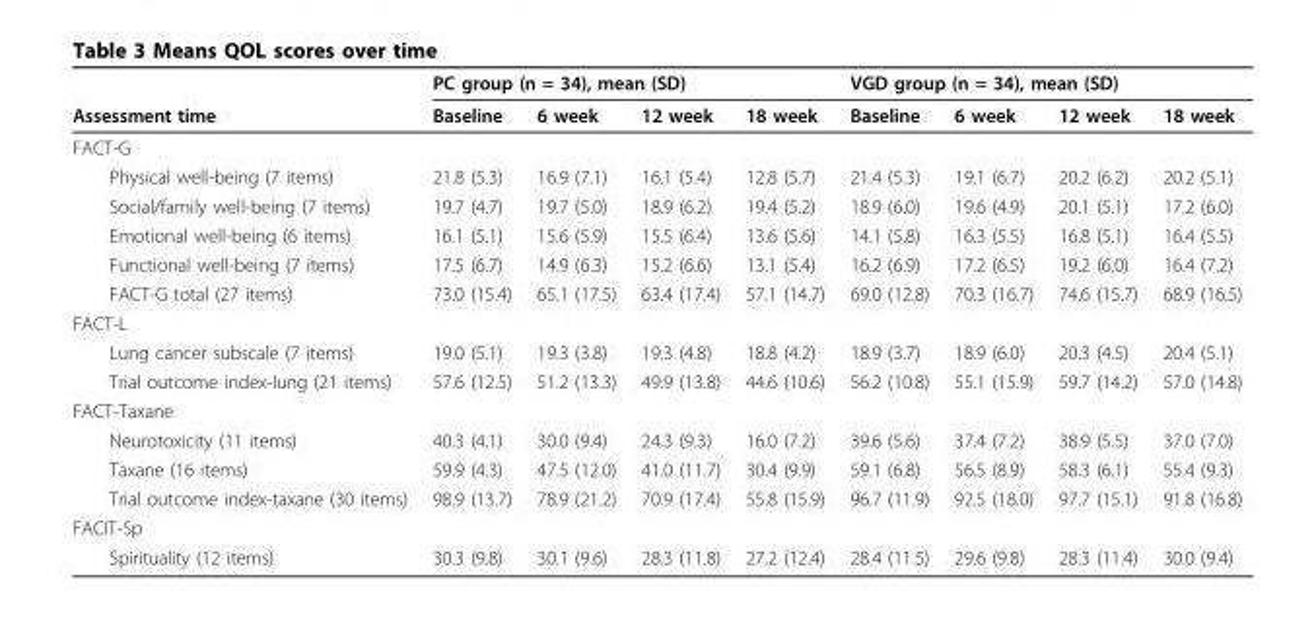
<table><thead><tr><td rowspan="2">Assessment time</td><td colspan="4">PC group (n = 34), mean (SD)</td><td colspan="4">VGD group (n = 34), mean (SD)</td></tr><tr><td>Baseline</td><td>6 week</td><td>12 week</td><td>18 week</td><td>Baseline</td><td>6 week</td><td>12 week</td><td>18 week</td></tr></thead><tbody><tr><td colspan="9">FACT-G</td></tr><tr><td>Physical well-being (7 items)</td><td>21.8 (5.3)</td><td>16.9 (7.1)</td><td>16.1 (5.4)</td><td>12.8 (5.7)</td><td>21.4 (5.3)</td><td>19.1 (6.7)</td><td>20.2 (6.2)</td><td>20.2 (5.1)</td></tr><tr><td>Social/family well-being (7 items)</td><td>19.7 (4.7)</td><td>19.7 (5.0)</td><td>18.9 (6.2)</td><td>19.4 (5.2)</td><td>18.9 (6.0)</td><td>19.6 (4.9)</td><td>20.1 (5.1)</td><td>17.2 (6.0)</td></tr><tr><td>Emotional well-being (6 items)</td><td>16.1 (5.1)</td><td>15.6 (5.9)</td><td>15.5 (6.4)</td><td>13.6 (5.6)</td><td>14.1 (5.8)</td><td>16.3 (5.5)</td><td>16.8 (5.1)</td><td>16.4 (5.5)</td></tr><tr><td>Functional well-being (7 items)</td><td>17.5 (6.7)</td><td>14.9 (6.3)</td><td>15.2 (6.6)</td><td>13.1 (5.4)</td><td>16.2 (6.9)</td><td>17.2 (6.5)</td><td>19.2 (6.0)</td><td>16.4 (7.2)</td></tr><tr><td>FACT-G total (27 items)</td><td>73.0 (15.4)</td><td>65.1 (17.5)</td><td>63.4 (17.4)</td><td>57.1 (14.7)</td><td>69.0 (12.8)</td><td>70.3 (16.7)</td><td>74.6 (15.7)</td><td>68.9 (16.5)</td></tr><tr><td colspan="9">FACT-L</td></tr><tr><td>Lung cancer subscale (7 items)</td><td>19.0 (5.1)</td><td>19.3 (3.8)</td><td>19.3 (4.8)</td><td>18.8 (4.2)</td><td>18.9 (3.7)</td><td>18.9 (6.0)</td><td>20.3 (4.5)</td><td>20.4 (5.1)</td></tr><tr><td>Trial outcome index-lung (21 items)</td><td>57.6 (12.5)</td><td>51.2 (13.3)</td><td>49.9 (13.8)</td><td>44.6 (10.6)</td><td>56.2 (10.8)</td><td>55.1 (15.9)</td><td>59.7 (14.2)</td><td>57.0 (14.8)</td></tr><tr><td colspan="9">FACT-Taxane</td></tr><tr><td>Neurotoxicity (11 items)</td><td>40.3 (4.1)</td><td>30.0 (9.4)</td><td>24.3 (9.3)</td><td>16.0 (7.2)</td><td>39.6 (5.6)</td><td>37.4 (7.2)</td><td>38.9 (5.5)</td><td>37.0 (7.0)</td></tr><tr><td>Taxane (16 items)</td><td>59.9 (4.3)</td><td>47.5 (12.0)</td><td>41.0 (11.7)</td><td>30.4 (9.9)</td><td>59.1 (6.8)</td><td>56.5 (8.9)</td><td>58.3 (6.1)</td><td>55.4 (9.3)</td></tr><tr><td>Trial outcome index-taxane (30 items)</td><td>98.9 (13.7)</td><td>78.9 (21.2)</td><td>70.9 (17.4)</td><td>55.8 (15.9)</td><td>96.7 (11.9)</td><td>92.5 (18.0)</td><td>97.7 (15.1)</td><td>91.8 (16.8)</td></tr><tr><td colspan="9">FACIT-Sp</td></tr><tr><td>Spirituality (12 items)</td><td>30.3 (9.8)</td><td>30.1 (9.6)</td><td>28.3 (11.8)</td><td>27.2 (12.4)</td><td>28.4 (11.5)</td><td>29.6 (9.8)</td><td>28.3 (11.4)</td><td>30.0 (9.4)</td></tr></tbody></table>